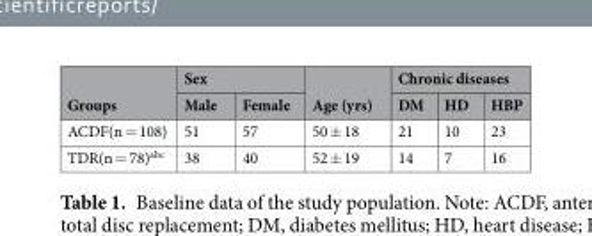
<table><thead><tr><td rowspan="2">Groups</td><td colspan="2">Sex</td><td rowspan="2">Age (yrs)</td><td colspan="3">Chronic diseases</td></tr><tr><td>Male</td><td>Female</td><td>DM</td><td>HD</td><td>HBP</td></tr></thead><tbody><tr><td>ACDF(n = 108)</td><td>51</td><td>57</td><td>50 ± 18</td><td>21</td><td>10</td><td>23</td></tr><tr><td>TDR(n = 78)<sup>abc</sup></td><td>38</td><td>40</td><td>52 ± 19</td><td>14</td><td>7</td><td>16</td></tr></tbody></table>